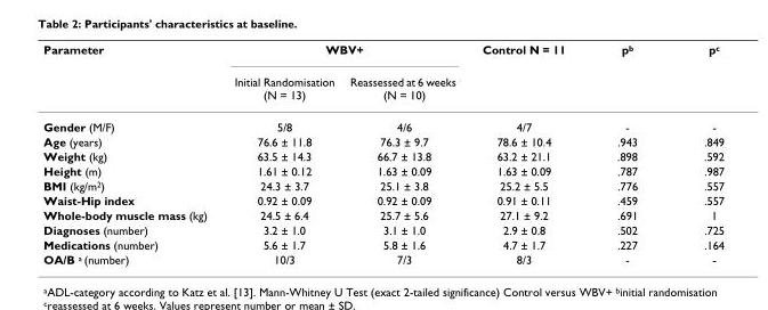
<table><thead><tr><td rowspan="2">Parameter</td><td colspan="2">WBV+</td><td rowspan="2">Control N = 11</td><td rowspan="2">p<sup>b</sup></td><td rowspan="2">p<sup>c</sup></td></tr><tr><td>Initial Randomisation (N = 13)</td><td>Reassessed at 6 weeks (N = 10)</td></tr></thead><tbody><tr><td>Gender (M/F)</td><td>5/8</td><td>4/6</td><td>4/7</td><td>-</td><td>-</td></tr><tr><td>Age (years)</td><td>76.6 ± 11.8</td><td>76.3 ± 9.7</td><td>78.6 ± 10.4</td><td>.943</td><td>.849</td></tr><tr><td>Weight (kg)</td><td>63.5 ± 14.3</td><td>66.7 ± 13.8</td><td>63.2 ± 21.1</td><td>.898</td><td>.592</td></tr><tr><td>Height (m)</td><td>1.61 ± 0.12</td><td>1.63 ± 0.09</td><td>1.63 ± 0.09</td><td>.787</td><td>.987</td></tr><tr><td>BMI (kg/m<sup>2</sup>)</td><td>24.3 ± 3.7</td><td>25.1 ± 3.8</td><td>25.2 ± 5.5</td><td>.776</td><td>.557</td></tr><tr><td>Waist-Hip index</td><td>0.92 ± 0.09</td><td>0.92 ± 0.09</td><td>0.91 ± 0.11</td><td>.459</td><td>.557</td></tr><tr><td>Whole-body muscle mass (kg)</td><td>24.5 ± 6.4</td><td>25.7 ± 5.6</td><td>27.1 ± 9.2</td><td>.691</td><td>1</td></tr><tr><td>Diagnoses (number)</td><td>3.2 ± 1.0</td><td>3.1 ± 1.0</td><td>2.9 ± 0.8</td><td>.502</td><td>.725</td></tr><tr><td>Medications (number)</td><td>5.6 ± 1.7</td><td>5.8 ± 1.6</td><td>4.7 ± 1.7</td><td>.227</td><td>.164</td></tr><tr><td>OA/B <sup>a</sup> (number)</td><td>10/3</td><td>7/3</td><td>8/3</td><td>-</td><td>-</td></tr></tbody></table>